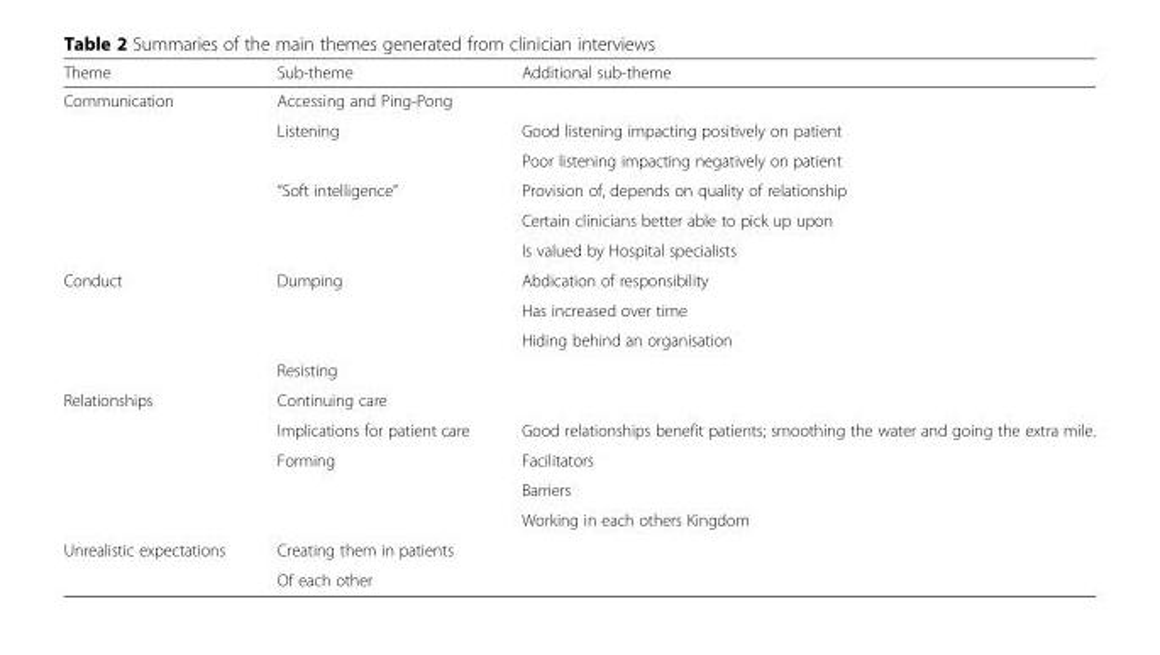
<table><thead><tr><td>Theme</td><td>Sub-theme</td><td>Additional sub-theme</td></tr></thead><tbody><tr><td rowspan="6">Communication</td><td colspan="2">Accessing and Ping-Pong</td></tr><tr><td rowspan="2">Listening</td><td>Good listening impacting positively on patient</td></tr><tr><td>Poor listening impacting negatively on patient</td></tr><tr><td rowspan="3">“Soft intelligence”</td><td>Provision of, depends on quality of relationship</td></tr><tr><td>Certain clinicians better able to pick up upon</td></tr><tr><td>Is valued by Hospital specialists</td></tr><tr><td rowspan="4">Conduct</td><td rowspan="3">Dumping</td><td>Abdication of responsibility</td></tr><tr><td>Has increased over time</td></tr><tr><td>Hiding behind an organisation</td></tr><tr><td colspan="2">Resisting</td></tr><tr><td rowspan="5">Relationships</td><td colspan="2">Continuing care</td></tr><tr><td>Implications for patient care</td><td>Good relationships benefit patients; smoothing the water and going the extra mile.</td></tr><tr><td rowspan="3">Forming</td><td>Facilitators</td></tr><tr><td>Barriers</td></tr><tr><td>Working in each others Kingdom</td></tr><tr><td rowspan="2">Unrealistic expectations</td><td colspan="2">Creating them in patients</td></tr><tr><td colspan="2">Of each other</td></tr></tbody></table>